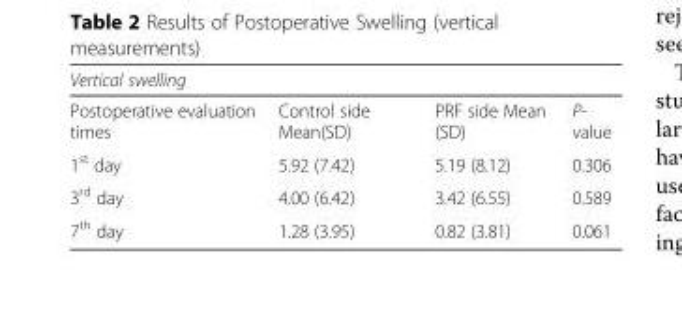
<table><thead><tr><td colspan="4">Vertical swelling</td></tr><tr><td>Postoperative evaluation times</td><td>Control side Mean(SD)</td><td>PRF side Mean (SD)</td><td>P- value</td></tr></thead><tbody><tr><td>1<sup>st</sup> day</td><td>5.92 (7.42)</td><td>5.19 (8.12)</td><td>0.306</td></tr><tr><td>3<sup>rd</sup> day</td><td>4.00 (6.42)</td><td>3.42 (6.55)</td><td>0.589</td></tr><tr><td>7<sup>th</sup> day</td><td>1.28 (3.95)</td><td>0.82 (3.81)</td><td>0.061</td></tr></tbody></table>